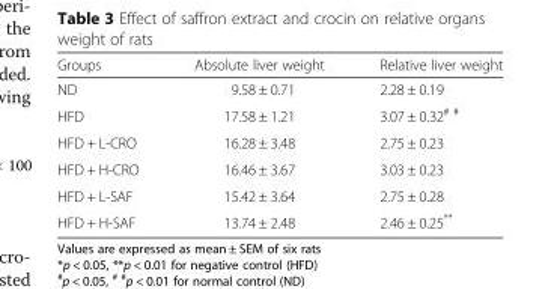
<table><thead><tr><td>Groups</td><td>Absolute liver weight</td><td>Relative liver weight</td></tr></thead><tbody><tr><td>ND</td><td>9.58 ± 0.71</td><td>2.28 ± 0.19</td></tr><tr><td>HFD</td><td>17.58 ± 1.21</td><td>3.07 ± 0.32<sup># #</sup></td></tr><tr><td>HFD + L-CRO</td><td>16.28 ± 3.48</td><td>2.75 ± 0.23</td></tr><tr><td>HFD + H-CRO</td><td>16.46 ± 3.67</td><td>3.03 ± 0.23</td></tr><tr><td>HFD + L-SAF</td><td>15.42 ± 3.64</td><td>2.75 ± 0.28</td></tr><tr><td>HFD + H-SAF</td><td>13.74 ± 2.48</td><td>2.46 ± 0.25**</td></tr></tbody></table>